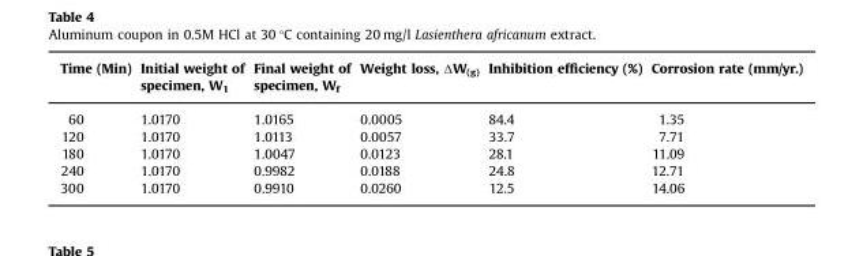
<table><thead><tr><td>Time (Min)</td><td>Initial weight of specimen, W<sub>1</sub></td><td>Final weight of specimen, W<sub>f</sub></td><td>Weight loss, ΔW(g)</td><td>Inhibition efficiency (%)</td><td>Corrosion rate (mm/yr.)</td></tr></thead><tbody><tr><td>60</td><td>1.0170</td><td>1.0165</td><td>0.0005</td><td>84.4</td><td>1.35</td></tr><tr><td>120</td><td>1.0170</td><td>1.0113</td><td>0.0057</td><td>33.7</td><td>7.71</td></tr><tr><td>180</td><td>1.0170</td><td>1.0047</td><td>0.0123</td><td>28.1</td><td>11.09</td></tr><tr><td>240</td><td>1.0170</td><td>0.9982</td><td>0.0188</td><td>24.8</td><td>12.71</td></tr><tr><td>300</td><td>1.0170</td><td>0.9910</td><td>0.0260</td><td>12.5</td><td>14.06</td></tr></tbody></table>